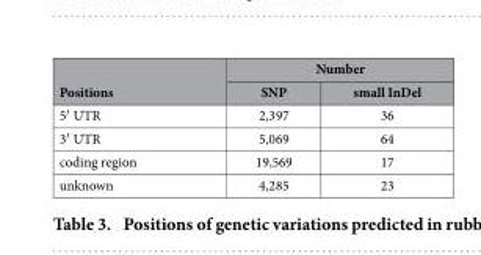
<table><thead><tr><td rowspan="2">Positions</td><td colspan="2">Number</td></tr><tr><td>SNP</td><td>small InDel</td></tr></thead><tbody><tr><td>5′ UTR</td><td>2,397</td><td>36</td></tr><tr><td>3′ UTR</td><td>5,069</td><td>64</td></tr><tr><td>coding region</td><td>19,569</td><td>17</td></tr><tr><td>unknown</td><td>4,285</td><td>23</td></tr></tbody></table>